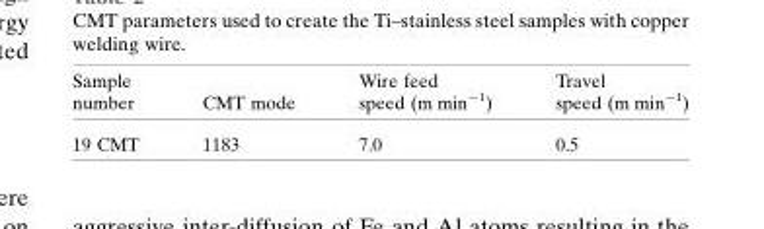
<table><thead><tr><td>Sample number</td><td>CMT mode</td><td>Wire feed speed (m min<sup>−1</sup>)</td><td>Travel speed (m min<sup>−1</sup>)</td></tr></thead><tbody><tr><td>19 CMT</td><td>1183</td><td>7.0</td><td>0.5</td></tr></tbody></table>